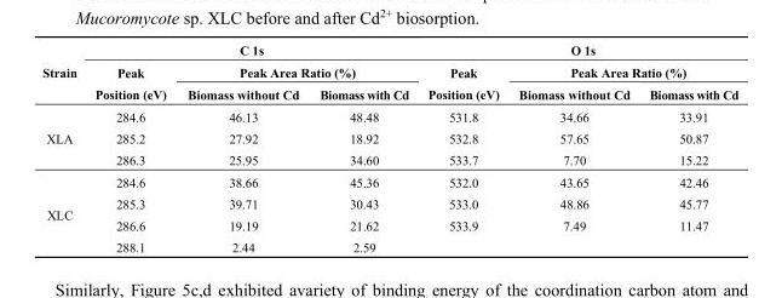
<table><thead><tr><td rowspan="3">Strain</td><td colspan="3">C 1s</td><td colspan="3">O 1s</td></tr><tr><td rowspan="2">Peak Position (eV)</td><td colspan="2">Peak Area Ratio (%)</td><td rowspan="2">Peak Position (eV)</td><td colspan="2">Peak Area Ratio (%)</td></tr><tr><td>Biomass without Cd</td><td>Biomass with Cd</td><td>Biomass without Cd</td><td>Biomass with Cd</td></tr></thead><tbody><tr><td rowspan="3">XLA</td><td>284.6</td><td>46.13</td><td>48.48</td><td>531.8</td><td>34.66</td><td>33.91</td></tr><tr><td>285.2</td><td>27.92</td><td>18.92</td><td>532.8</td><td>57.65</td><td>50.87</td></tr><tr><td>286.3</td><td>25.95</td><td>34.60</td><td>533.7</td><td>7.70</td><td>15.22</td></tr><tr><td rowspan="4">XLC</td><td>284.6</td><td>38.66</td><td>45.36</td><td>532.0</td><td>43.65</td><td>42.46</td></tr><tr><td>285.3</td><td>39.71</td><td>30.43</td><td>533.0</td><td>48.86</td><td>45.77</td></tr><tr><td>286.6</td><td>19.19</td><td>21.62</td><td>533.9</td><td>7.49</td><td>11.47</td></tr><tr><td>288.1</td><td>2.44</td><td>2.59</td><td></td><td></td><td></td></tr></tbody></table>